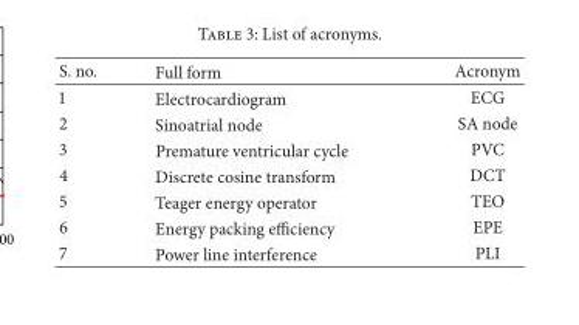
<table><thead><tr><td>S. no.</td><td>Full form</td><td>Acronym</td></tr></thead><tbody><tr><td>1</td><td>Electrocardiogram</td><td>ECG</td></tr><tr><td>2</td><td>Sinoatrial node</td><td>SA node</td></tr><tr><td>3</td><td>Premature ventricular cycle</td><td>PVC</td></tr><tr><td>4</td><td>Discrete cosine transform</td><td>DCT</td></tr><tr><td>5</td><td>Teager energy operator</td><td>TEO</td></tr><tr><td>6</td><td>Energy packing efficiency</td><td>EPE</td></tr><tr><td>7</td><td>Power line interference</td><td>PLI</td></tr></tbody></table>